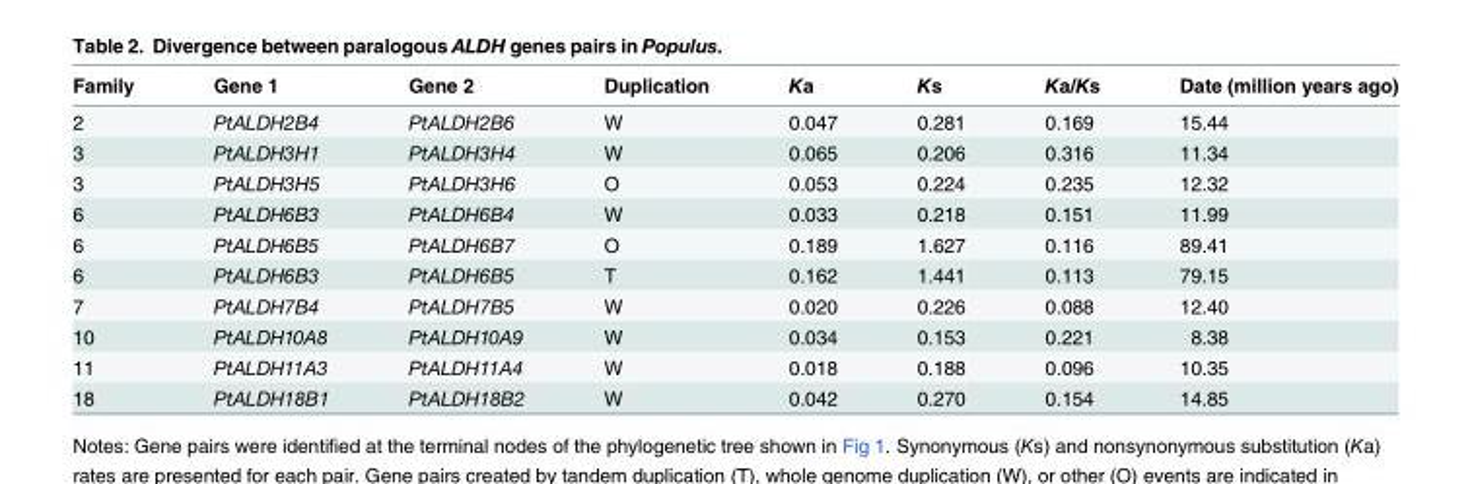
<table><thead><tr><td>Family</td><td>Gene 1</td><td>Gene 2</td><td>Duplication</td><td>Ka</td><td>Ks</td><td>Ka/Ks</td><td>Date (million years ago)</td></tr></thead><tbody><tr><td>2</td><td>PtALDH2B4</td><td>PtALDH2B6</td><td>W</td><td>0.047</td><td>0.281</td><td>0.169</td><td>15.44</td></tr><tr><td>3</td><td>PtALDH3H1</td><td>PtALDH3H4</td><td>W</td><td>0.065</td><td>0.206</td><td>0.316</td><td>11.34</td></tr><tr><td>3</td><td>PtALDH3H5</td><td>PtALDH3H6</td><td>O</td><td>0.053</td><td>0.224</td><td>0.235</td><td>12.32</td></tr><tr><td>6</td><td>PtALDH6B3</td><td>PtALDH6B4</td><td>W</td><td>0.033</td><td>0.218</td><td>0.151</td><td>11.99</td></tr><tr><td>6</td><td>PtALDH6B5</td><td>PtALDH6B7</td><td>O</td><td>0.189</td><td>1.627</td><td>0.116</td><td>89.41</td></tr><tr><td>6</td><td>PtALDH6B3</td><td>PtALDH6B5</td><td>T</td><td>0.162</td><td>1.441</td><td>0.113</td><td>79.15</td></tr><tr><td>7</td><td>PtALDH7B4</td><td>PtALDH7B5</td><td>W</td><td>0.020</td><td>0.226</td><td>0.088</td><td>12.40</td></tr><tr><td>10</td><td>PtALDH10A8</td><td>PtALDH10A9</td><td>W</td><td>0.034</td><td>0.153</td><td>0.221</td><td>8.38</td></tr><tr><td>11</td><td>PtALDH11A3</td><td>PtALDH11A4</td><td>W</td><td>0.018</td><td>0.188</td><td>0.096</td><td>10.35</td></tr><tr><td>18</td><td>PtALDH18B1</td><td>PtALDH18B2</td><td>W</td><td>0.042</td><td>0.270</td><td>0.154</td><td>14.85</td></tr></tbody></table>